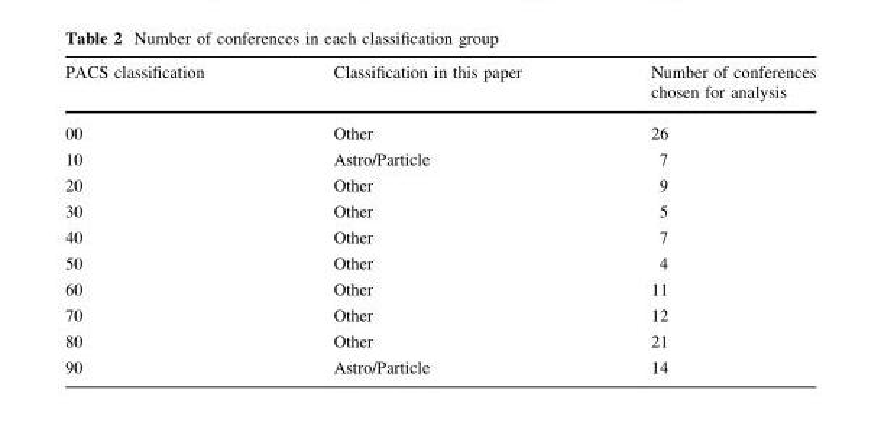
<table><thead><tr><td>PACS classification</td><td>Classification in this paper</td><td>Number of conferences chosen for analysis</td></tr></thead><tbody><tr><td>00</td><td>Other</td><td>26</td></tr><tr><td>10</td><td>Astro/Particle</td><td>7</td></tr><tr><td>20</td><td>Other</td><td>9</td></tr><tr><td>30</td><td>Other</td><td>5</td></tr><tr><td>40</td><td>Other</td><td>7</td></tr><tr><td>50</td><td>Other</td><td>4</td></tr><tr><td>60</td><td>Other</td><td>11</td></tr><tr><td>70</td><td>Other</td><td>12</td></tr><tr><td>80</td><td>Other</td><td>21</td></tr><tr><td>90</td><td>Astro/Particle</td><td>14</td></tr></tbody></table>